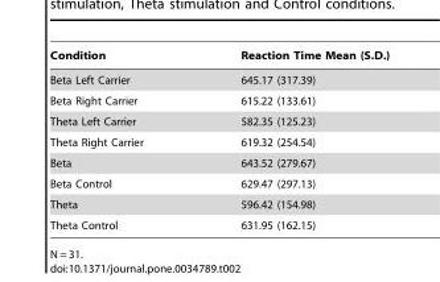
<table><thead><tr><td>Condition</td><td>Reaction Time Mean (S.D.)</td></tr></thead><tbody><tr><td>Beta Left Carrier</td><td>645.17 (317.39)</td></tr><tr><td>Beta Right Carrier</td><td>615.22 (133.61)</td></tr><tr><td>Theta Left Carrier</td><td>582.35 (125.23)</td></tr><tr><td>Theta Right Carrier</td><td>619.32 (254.54)</td></tr><tr><td>Beta</td><td>643.52 (279.67)</td></tr><tr><td>Beta Control</td><td>629.47 (297.13)</td></tr><tr><td>Theta</td><td>596.42 (154.98)</td></tr><tr><td>Theta Control</td><td>631.95 (162.15)</td></tr></tbody></table>